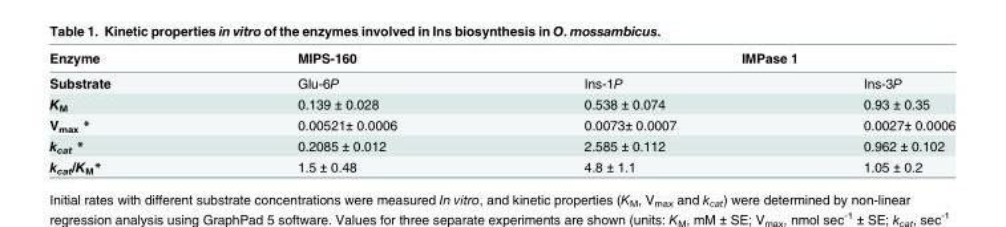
<table><thead><tr><td rowspan="2">Enzyme Substrate</td><td rowspan="2">MIPS-160 Glu-6P</td><td colspan="2">IMPase 1</td></tr><tr><td>Ins-1P</td><td>Ins-3P</td></tr></thead><tbody><tr><td>K<sub>M</sub></td><td>0.139 ± 0.028</td><td>0.538 ± 0.074</td><td>0.93 ± 0.35</td></tr><tr><td>V<sub>max</sub> *</td><td>0.00521± 0.0006</td><td>0.0073± 0.0007</td><td>0.0027± 0.0006</td></tr><tr><td>k<sub>cat</sub> *</td><td>0.2085 ± 0.012</td><td>2.585 ± 0.112</td><td>0.962 ± 0.102</td></tr><tr><td>k<sub>cat</sub>/K<sub>M</sub>*</td><td>1.5 ± 0.48</td><td>4.8 ± 1.1</td><td>1.05 ± 0.2</td></tr></tbody></table>